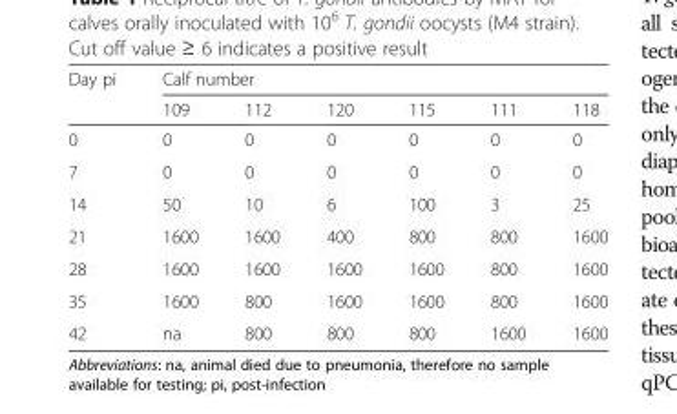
<table><thead><tr><td rowspan="2">Day pi</td><td colspan="6">Calf number</td></tr><tr><td>109</td><td>112</td><td>120</td><td>115</td><td>111</td><td>118</td></tr></thead><tbody><tr><td>0</td><td>0</td><td>0</td><td>0</td><td>0</td><td>0</td><td>0</td></tr><tr><td>7</td><td>0</td><td>0</td><td>0</td><td>0</td><td>0</td><td>0</td></tr><tr><td>14</td><td>50</td><td>10</td><td>6</td><td>100</td><td>3</td><td>25</td></tr><tr><td>21</td><td>1600</td><td>1600</td><td>400</td><td>800</td><td>800</td><td>1600</td></tr><tr><td>28</td><td>1600</td><td>1600</td><td>1600</td><td>1600</td><td>800</td><td>1600</td></tr><tr><td>35</td><td>1600</td><td>800</td><td>1600</td><td>1600</td><td>800</td><td>1600</td></tr><tr><td>42</td><td>na</td><td>800</td><td>800</td><td>800</td><td>1600</td><td>1600</td></tr></tbody></table>